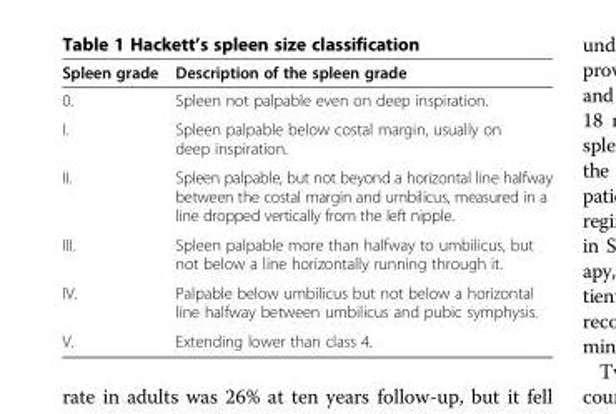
<table><thead><tr><td>Spleen grade</td><td>Description of the spleen grade</td></tr></thead><tbody><tr><td>0.</td><td>Spleen not palpable even on deep inspiration.</td></tr><tr><td>I.</td><td>Spleen palpable below costal margin, usually on deep inspiration.</td></tr><tr><td>II.</td><td>Spleen palpable, but not beyond a horizontal line halfway between the costal margin and umbilicus, measured in a line dropped vertically from the left nipple.</td></tr><tr><td>III.</td><td>Spleen palpable more than halfway to umbilicus, but not below a line horizontally running through it.</td></tr><tr><td>IV.</td><td>Palpable below umbilicus but not below a horizontal line halfway between umbilicus and pubic symphysis.</td></tr><tr><td>V.</td><td>Extending lower than class 4.</td></tr></tbody></table>